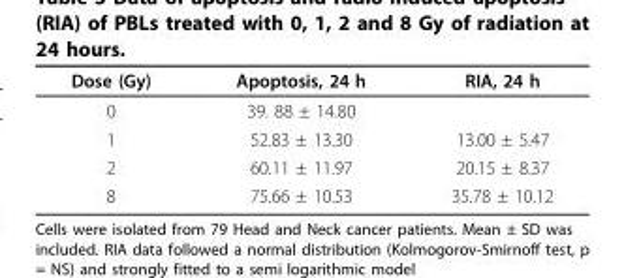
<table><thead><tr><td>Dose (Gy)</td><td>Apoptosis, 24 h</td><td>RIA, 24 h</td></tr></thead><tbody><tr><td>0</td><td>39. 88 ± 14.80</td><td></td></tr><tr><td>1</td><td>52.83 ± 13.30</td><td>13.00 ± 5.47</td></tr><tr><td>2</td><td>60.11 ± 11.97</td><td>20.15 ± 8.37</td></tr><tr><td>8</td><td>75.66 ± 10.53</td><td>35.78 ± 10.12</td></tr></tbody></table>